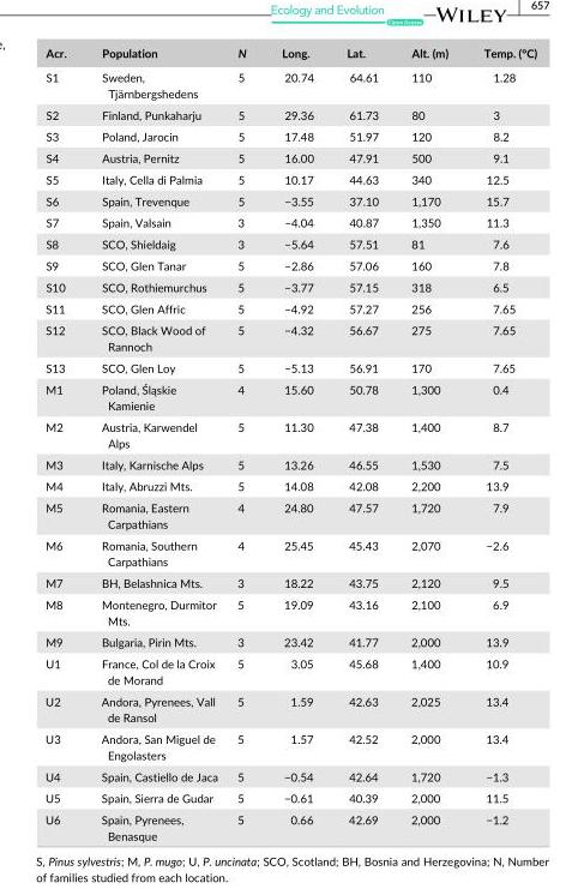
<table><thead><tr><td>Acr.</td><td>Population</td><td>N</td><td>Long.</td><td>Lat.</td><td>Alt. (m)</td><td>Temp. (°C)</td></tr></thead><tbody><tr><td>S1</td><td>Sweden, Tjärnbergshedens</td><td>5</td><td>20.74</td><td>64.61</td><td>110</td><td>1.28</td></tr><tr><td>S2</td><td>Finland, Punkaharju</td><td>5</td><td>29.36</td><td>61.73</td><td>80</td><td>3</td></tr><tr><td>S3</td><td>Poland, Jarocin</td><td>5</td><td>17.48</td><td>51.97</td><td>120</td><td>8.2</td></tr><tr><td>S4</td><td>Austria, Pernitz</td><td>5</td><td>16.00</td><td>47.91</td><td>500</td><td>9.1</td></tr><tr><td>S5</td><td>Italy, Cella di Palmia</td><td>5</td><td>10.17</td><td>44.63</td><td>340</td><td>12.5</td></tr><tr><td>S6</td><td>Spain, Trevenque</td><td>5</td><td>−3.55</td><td>37.10</td><td>1,170</td><td>15.7</td></tr><tr><td>S7</td><td>Spain, Valsain</td><td>3</td><td>−4.04</td><td>40.87</td><td>1,350</td><td>11.3</td></tr><tr><td>S8</td><td>SCO, Shieldaig</td><td>3</td><td>−5.64</td><td>57.51</td><td>81</td><td>7.6</td></tr><tr><td>S9</td><td>SCO, Glen Tanar</td><td>5</td><td>−2.86</td><td>57.06</td><td>160</td><td>7.8</td></tr><tr><td>S10</td><td>SCO, Rothiemurchus</td><td>5</td><td>−3.77</td><td>57.15</td><td>318</td><td>6.5</td></tr><tr><td>S11</td><td>SCO, Glen Affric</td><td>5</td><td>−4.92</td><td>57.27</td><td>256</td><td>7.65</td></tr><tr><td>S12</td><td>SCO, Black Wood of Rannoch</td><td>5</td><td>−4.32</td><td>56.67</td><td>275</td><td>7.65</td></tr><tr><td>S13</td><td>SCO, Glen Loy</td><td>5</td><td>−5.13</td><td>56.91</td><td>170</td><td>7.65</td></tr><tr><td>M1</td><td>Poland, Śląskie Kamienie</td><td>4</td><td>15.60</td><td>50.78</td><td>1,300</td><td>0.4</td></tr><tr><td>M2</td><td>Austria, Karwendel Alps</td><td>5</td><td>11.30</td><td>47.38</td><td>1,400</td><td>8.7</td></tr><tr><td>M3</td><td>Italy, Karnische Alps</td><td>5</td><td>13.26</td><td>46.55</td><td>1,530</td><td>7.5</td></tr><tr><td>M4</td><td>Italy, Abruzzi Mts.</td><td>5</td><td>14.08</td><td>42.08</td><td>2,200</td><td>13.9</td></tr><tr><td>M5</td><td>Romania, Eastern Carpathians</td><td>4</td><td>24.80</td><td>47.57</td><td>1,720</td><td>7.9</td></tr><tr><td>M6</td><td>Romania, Southern Carpathians</td><td>4</td><td>25.45</td><td>45.43</td><td>2,070</td><td>−2.6</td></tr><tr><td>M7</td><td>BH, Belashnica Mts.</td><td>3</td><td>18.22</td><td>43.75</td><td>2,120</td><td>9.5</td></tr><tr><td>M8</td><td>Montenegro, Durmitor Mts.</td><td>5</td><td>19.09</td><td>43.16</td><td>2,100</td><td>6.9</td></tr><tr><td>M9</td><td>Bulgaria, Pirin Mts.</td><td>3</td><td>23.42</td><td>41.77</td><td>2,000</td><td>13.9</td></tr><tr><td>U1</td><td>France, Col de la Croix de Morand</td><td>5</td><td>3.05</td><td>45.68</td><td>1,400</td><td>10.9</td></tr><tr><td>U2</td><td>Andora, Pyrenees, Vall de Ransol</td><td>5</td><td>1.59</td><td>42.63</td><td>2,025</td><td>13.4</td></tr><tr><td>U3</td><td>Andora, San Miguel de Engolasters</td><td>5</td><td>1.57</td><td>42.52</td><td>2,000</td><td>13.4</td></tr><tr><td>U4</td><td>Spain, Castiello de Jaca</td><td>5</td><td>−0.54</td><td>42.64</td><td>1,720</td><td>−1.3</td></tr><tr><td>U5</td><td>Spain, Sierra de Gudar</td><td>5</td><td>−0.61</td><td>40.39</td><td>2,000</td><td>11.5</td></tr><tr><td>U6</td><td>Spain, Pyrenees, Benasque</td><td>5</td><td>0.66</td><td>42.69</td><td>2,000</td><td>−1.2</td></tr></tbody></table>